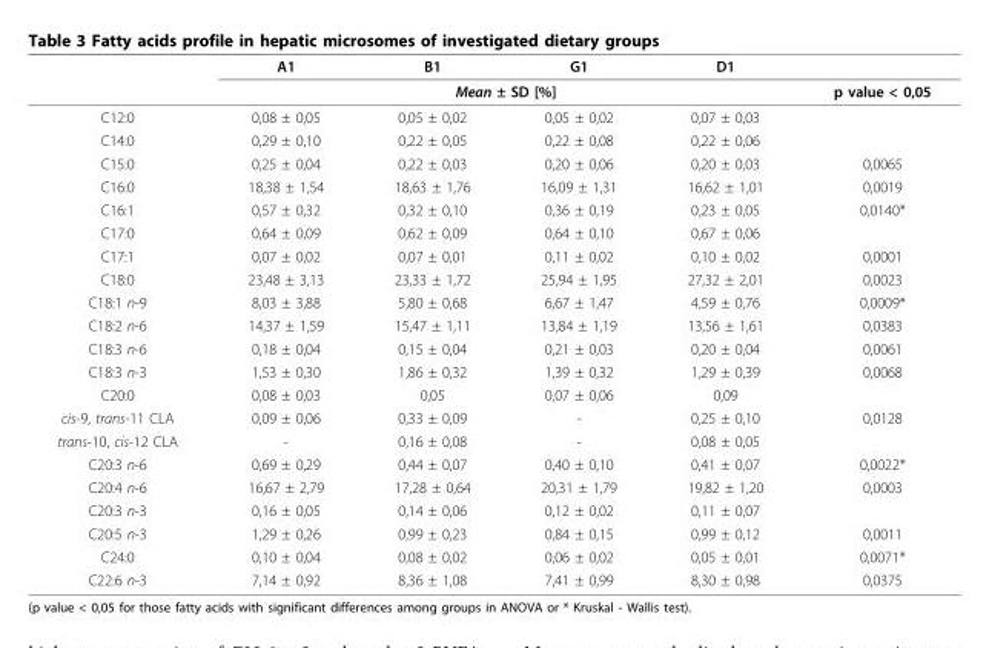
<table><thead><tr><td rowspan="2"></td><td>A1</td><td>B1</td><td>G1</td><td>D1</td><td rowspan="2">p value &lt; 0,05</td></tr><tr><td colspan="4">Mean ± SD [%]</td></tr></thead><tbody><tr><td>C12:0</td><td>0,08 ± 0,05</td><td>0,05 ± 0,02</td><td>0,05 ± 0,02</td><td>0,07 ± 0,03</td><td></td></tr><tr><td>C14:0</td><td>0,29 ± 0,10</td><td>0,22 ± 0,05</td><td>0,22 ± 0,08</td><td>0,22 ± 0,06</td><td></td></tr><tr><td>C15:0</td><td>0,25 ± 0,04</td><td>0,22 ± 0,03</td><td>0,20 ± 0,06</td><td>0,20 ± 0,03</td><td>0,0065</td></tr><tr><td>C16:0</td><td>18,38 ± 1,54</td><td>18,63 ± 1,76</td><td>16,09 ± 1,31</td><td>16,62 ± 1,01</td><td>0,0019</td></tr><tr><td>C16:1</td><td>0,57 ± 0,32</td><td>0,32 ± 0,10</td><td>0,36 ± 0,19</td><td>0,23 ± 0,05</td><td>0,0140*</td></tr><tr><td>C17:0</td><td>0,64 ± 0,09</td><td>0,62 ± 0,09</td><td>0,64 ± 0,10</td><td>0,67 ± 0,06</td><td></td></tr><tr><td>C17:1</td><td>0,07 ± 0,02</td><td>0,07 ± 0,01</td><td>0,11 ± 0,02</td><td>0,10 ± 0,02</td><td>0,0001</td></tr><tr><td>C18:0</td><td>23,48 ± 3,13</td><td>23,33 ± 1,72</td><td>25,94 ± 1,95</td><td>27,32 ± 2,01</td><td>0,0023</td></tr><tr><td>C18:1 n-9</td><td>8,03 ± 3,88</td><td>5,80 ± 0,68</td><td>6,67 ± 1,47</td><td>4,59 ± 0,76</td><td>0,0009*</td></tr><tr><td>C18:2 n-6</td><td>14,37 ± 1,59</td><td>15,47 ± 1,11</td><td>13,84 ± 1,19</td><td>13,56 ± 1,61</td><td>0,0383</td></tr><tr><td>C18:3 n-6</td><td>0,18 ± 0,04</td><td>0,15 ± 0,04</td><td>0,21 ± 0,03</td><td>0,20 ± 0,04</td><td>0,0061</td></tr><tr><td>C18:3 n-3</td><td>1,53 ± 0,30</td><td>1,86 ± 0,32</td><td>1,39 ± 0,32</td><td>1,29 ± 0,39</td><td>0,0068</td></tr><tr><td>C20:0</td><td>0,08 ± 0,03</td><td>0,05</td><td>0,07 ± 0,06</td><td>0,09</td><td></td></tr><tr><td>cis-9, trans-11 CLA</td><td>0,09 ± 0,06</td><td>0,33 ± 0,09</td><td>-</td><td>0,25 ± 0,10</td><td>0,0128</td></tr><tr><td>trans-10, cis-12 CLA</td><td>-</td><td>0,16 ± 0,08</td><td>-</td><td>0,08 ± 0,05</td><td></td></tr><tr><td>C20:3 n-6</td><td>0,69 ± 0,29</td><td>0,44 ± 0,07</td><td>0,40 ± 0,10</td><td>0,41 ± 0,07</td><td>0,0022*</td></tr><tr><td>C20:4 n-6</td><td>16,67 ± 2,79</td><td>17,28 ± 0,64</td><td>20,31 ± 1,79</td><td>19,82 ± 1,20</td><td>0,0003</td></tr><tr><td>C20:3 n-3</td><td>0,16 ± 0,05</td><td>0,14 ± 0,06</td><td>0,12 ± 0,02</td><td>0,11 ± 0,07</td><td></td></tr><tr><td>C20:5 n-3</td><td>1,29 ± 0,26</td><td>0,99 ± 0,23</td><td>0,84 ± 0,15</td><td>0,99 ± 0,12</td><td>0,0011</td></tr><tr><td>C24:0</td><td>0,10 ± 0,04</td><td>0,08 ± 0,02</td><td>0,06 ± 0,02</td><td>0,05 ± 0,01</td><td>0,0071*</td></tr><tr><td>C22:6 n-3</td><td>7,14 ± 0,92</td><td>8,36 ± 1,08</td><td>7,41 ± 0,99</td><td>8,30 ± 0,98</td><td>0,0375</td></tr></tbody></table>